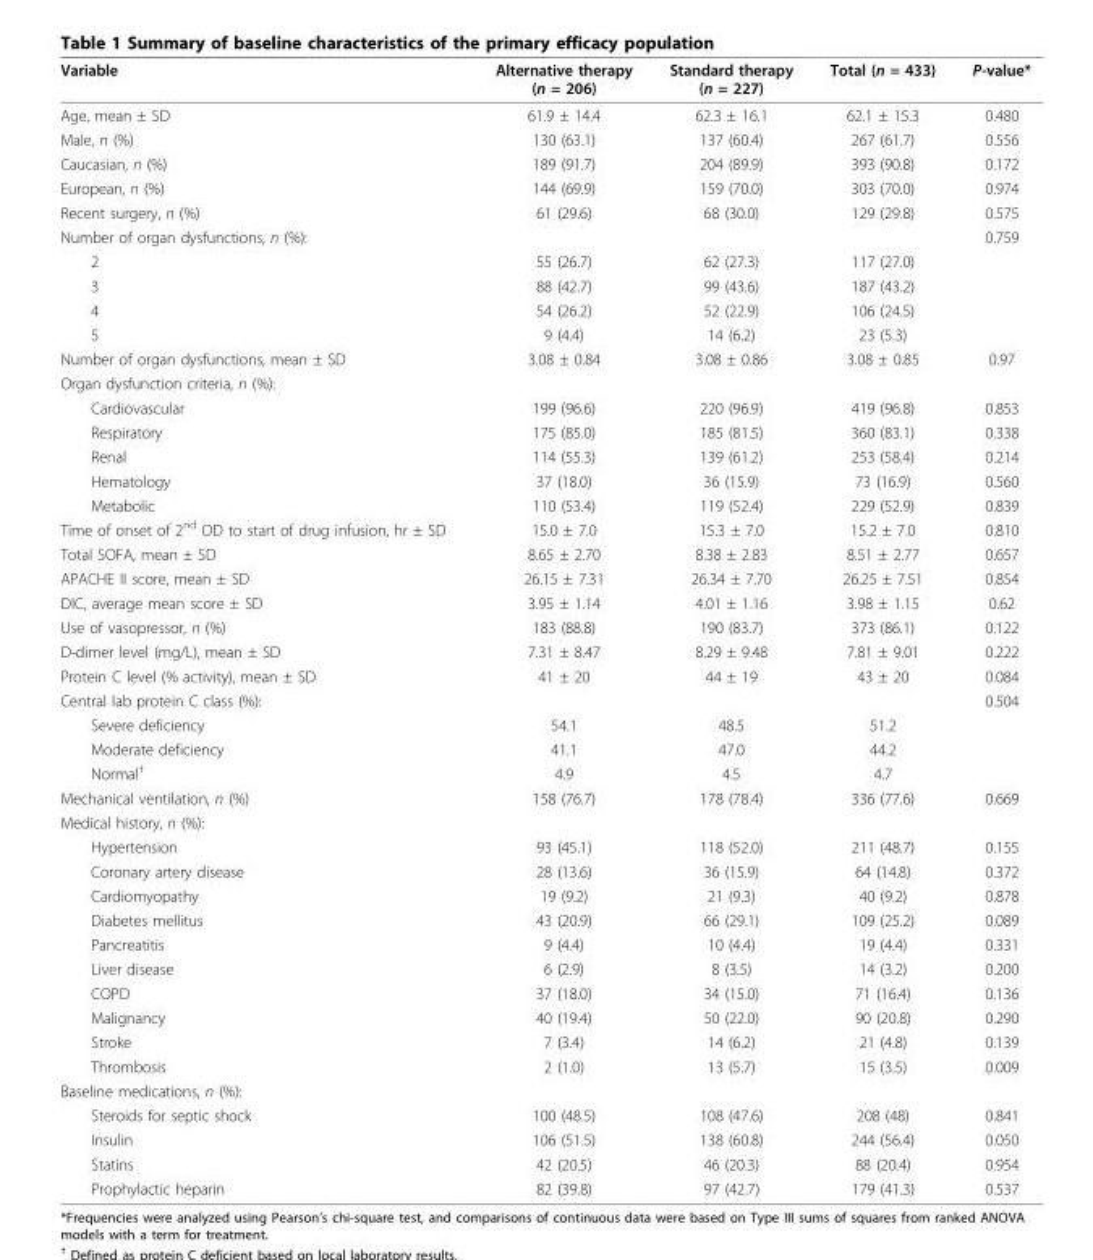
<table><thead><tr><td>Variable</td><td>Alternative therapy (n = 206)</td><td>Standard therapy (n = 227)</td><td>Total (n = 433)</td><td>P-value*</td></tr></thead><tbody><tr><td>Age, mean ± SD</td><td>61.9 ± 14.4</td><td>62.3 ± 16.1</td><td>62.1 ± 15.3</td><td>0.480</td></tr><tr><td>Male, n (%)</td><td>130 (63.1)</td><td>137 (60.4)</td><td>267 (61.7)</td><td>0.556</td></tr><tr><td>Caucasian, n (%)</td><td>189 (91.7)</td><td>204 (89.9)</td><td>393 (90.8)</td><td>0.172</td></tr><tr><td>European, n (%)</td><td>144 (69.9)</td><td>159 (70.0)</td><td>303 (70.0)</td><td>0.974</td></tr><tr><td>Recent surgery, n (%)</td><td>61 (29.6)</td><td>68 (30.0)</td><td>129 (29.8)</td><td>0.575</td></tr><tr><td>Number of organ dysfunctions, n (%):</td><td></td><td></td><td></td><td>0.759</td></tr><tr><td>2</td><td>55 (26.7)</td><td>62 (27.3)</td><td>117 (27.0)</td><td></td></tr><tr><td>3</td><td>88 (42.7)</td><td>99 (43.6)</td><td>187 (43.2)</td><td></td></tr><tr><td>4</td><td>54 (26.2)</td><td>52 (22.9)</td><td>106 (24.5)</td><td></td></tr><tr><td>5</td><td>9 (4.4)</td><td>14 (6.2)</td><td>23 (5.3)</td><td></td></tr><tr><td>Number of organ dysfunctions, mean ± SD</td><td>3.08 ± 0.84</td><td>3.08 ± 0.86</td><td>3.08 ± 0.85</td><td>0.97</td></tr><tr><td colspan="5">Organ dysfunction criteria, n (%):</td></tr><tr><td>Cardiovascular</td><td>199 (96.6)</td><td>220 (96.9)</td><td>419 (96.8)</td><td>0.853</td></tr><tr><td>Respiratory</td><td>175 (85.0)</td><td>185 (81.5)</td><td>360 (83.1)</td><td>0.338</td></tr><tr><td>Renal</td><td>114 (55.3)</td><td>139 (61.2)</td><td>253 (58.4)</td><td>0.214</td></tr><tr><td>Hematology</td><td>37 (18.0)</td><td>36 (15.9)</td><td>73 (16.9)</td><td>0.560</td></tr><tr><td>Metabolic</td><td>110 (53.4)</td><td>119 (52.4)</td><td>229 (52.9)</td><td>0.839</td></tr><tr><td>Time of onset of 2<sup>nd</sup> OD to start of drug infusion, hr ± SD</td><td>15.0 ± 7.0</td><td>15.3 ± 7.0</td><td>15.2 ± 7.0</td><td>0.810</td></tr><tr><td>Total SOFA, mean ± SD</td><td>8.65 ± 2.70</td><td>8.38 ± 2.83</td><td>8.51 ± 2.77</td><td>0.657</td></tr><tr><td>APACHE II score, mean ± SD</td><td>26.15 ± 7.31</td><td>26.34 ± 7.70</td><td>26.25 ± 7.51</td><td>0.854</td></tr><tr><td>DIC, average mean score ± SD</td><td>3.95 ± 1.14</td><td>4.01 ± 1.16</td><td>3.98 ± 1.15</td><td>0.62</td></tr><tr><td>Use of vasopressor, n (%)</td><td>183 (88.8)</td><td>190 (83.7)</td><td>373 (86.1)</td><td>0.122</td></tr><tr><td>D-dimer level (mg/L), mean ± SD</td><td>7.31 ± 8.47</td><td>8.29 ± 9.48</td><td>7.81 ± 9.01</td><td>0.222</td></tr><tr><td>Protein C level (% activity), mean ± SD</td><td>41 ± 20</td><td>44 ± 19</td><td>43 ± 20</td><td>0.084</td></tr><tr><td>Central lab protein C class (%):</td><td></td><td></td><td></td><td>0.504</td></tr><tr><td>Severe deficiency</td><td>54.1</td><td>48.5</td><td>51.2</td><td></td></tr><tr><td>Moderate deficiency</td><td>41.1</td><td>47.0</td><td>44.2</td><td></td></tr><tr><td>Normal<sup>†</sup></td><td>4.9</td><td>4.5</td><td>4.7</td><td></td></tr><tr><td>Mechanical ventilation, n (%)</td><td>158 (76.7)</td><td>178 (78.4)</td><td>336 (77.6)</td><td>0.669</td></tr><tr><td colspan="5">Medical history, n (%):</td></tr><tr><td>Hypertension</td><td>93 (45.1)</td><td>118 (52.0)</td><td>211 (48.7)</td><td>0.155</td></tr><tr><td>Coronary artery disease</td><td>28 (13.6)</td><td>36 (15.9)</td><td>64 (14.8)</td><td>0.372</td></tr><tr><td>Cardiomyopathy</td><td>19 (9.2)</td><td>21 (9.3)</td><td>40 (9.2)</td><td>0.878</td></tr><tr><td>Diabetes mellitus</td><td>43 (20.9)</td><td>66 (29.1)</td><td>109 (25.2)</td><td>0.089</td></tr><tr><td>Pancreatitis</td><td>9 (4.4)</td><td>10 (4.4)</td><td>19 (4.4)</td><td>0.331</td></tr><tr><td>Liver disease</td><td>6 (2.9)</td><td>8 (3.5)</td><td>14 (3.2)</td><td>0.200</td></tr><tr><td>COPD</td><td>37 (18.0)</td><td>34 (15.0)</td><td>71 (16.4)</td><td>0.136</td></tr><tr><td>Malignancy</td><td>40 (19.4)</td><td>50 (22.0)</td><td>90 (20.8)</td><td>0.290</td></tr><tr><td>Stroke</td><td>7 (3.4)</td><td>14 (6.2)</td><td>21 (4.8)</td><td>0.139</td></tr><tr><td>Thrombosis</td><td>2 (1.0)</td><td>13 (5.7)</td><td>15 (3.5)</td><td>0.009</td></tr><tr><td colspan="5">Baseline medications, n (%):</td></tr><tr><td>Steroids for septic shock</td><td>100 (48.5)</td><td>108 (47.6)</td><td>208 (48)</td><td>0.841</td></tr><tr><td>Insulin</td><td>106 (51.5)</td><td>138 (60.8)</td><td>244 (56.4)</td><td>0.050</td></tr><tr><td>Statins</td><td>42 (20.5)</td><td>46 (20.3)</td><td>88 (20.4)</td><td>0.954</td></tr><tr><td>Prophylactic heparin</td><td>82 (39.8)</td><td>97 (42.7)</td><td>179 (41.3)</td><td>0.537</td></tr></tbody></table>